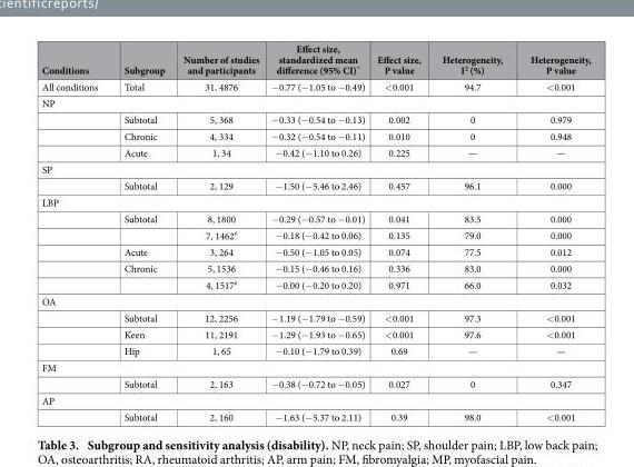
<table><thead><tr><td>Conditions</td><td>Subgroup</td><td>Number of studies and participants</td><td>Effect size, standardized mean difference (95% CI)*</td><td>Effect size, P value</td><td>Heterogeneity, I<sup>2</sup> (%)</td><td>Heterogeneity, P value</td></tr></thead><tbody><tr><td>All conditions</td><td>Total</td><td>31, 4876</td><td>− 0.77 (− 1.05 to − 0.49)</td><td>&lt; 0.001</td><td>94.7</td><td>&lt; 0.001</td></tr><tr><td colspan="7">NP</td></tr><tr><td></td><td>Subtotal</td><td>5, 368</td><td>− 0.33 (− 0.54 to − 0.13)</td><td>0.002</td><td>0</td><td>0.979</td></tr><tr><td></td><td>Chronic</td><td>4, 334</td><td>− 0.32 (− 0.54 to − 0.11)</td><td>0.010</td><td>0</td><td>0.948</td></tr><tr><td></td><td>Acute</td><td>1, 34</td><td>− 0.42 (− 1.10 to 0.26)</td><td>0.225</td><td>—</td><td>—</td></tr><tr><td colspan="7">SP</td></tr><tr><td></td><td>Subtotal</td><td>2, 129</td><td>− 1.50 (− 5.46 to 2.46)</td><td>0.457</td><td>96.1</td><td>0.000</td></tr><tr><td colspan="7">LBP</td></tr><tr><td></td><td>Subtotal</td><td>8, 1800</td><td>− 0.29 (− 0.57 to − 0.01)</td><td>0.041</td><td>83.5</td><td>0.000</td></tr><tr><td></td><td></td><td>7, 1462#</td><td>− 0.18 (− 0.42 to 0.06)</td><td>0.135</td><td>79.0</td><td>0.000</td></tr><tr><td></td><td>Acute</td><td>3, 264</td><td>− 0.50 (− 1.05 to 0.05)</td><td>0.074</td><td>77.5</td><td>0.012</td></tr><tr><td></td><td>Chronic</td><td>5, 1536</td><td>− 0.15 (− 0.46 to 0.16)</td><td>0.336</td><td>83.0</td><td>0.000</td></tr><tr><td></td><td></td><td>4, 1517#</td><td>− 0.00 (− 0.20 to 0.20)</td><td>0.971</td><td>66.0</td><td>0.032</td></tr><tr><td colspan="7">OA</td></tr><tr><td></td><td>Subtotal</td><td>12, 2256</td><td>− 1.19 (− 1.79 to − 0.59)</td><td>&lt; 0.001</td><td>97.3</td><td>&lt; 0.001</td></tr><tr><td></td><td>Keen</td><td>11, 2191</td><td>− 1.29 (− 1.93 to − 0.65)</td><td>&lt; 0.001</td><td>97.6</td><td>&lt; 0.001</td></tr><tr><td></td><td>Hip</td><td>1, 65</td><td>− 0.10 (− 1.79 to 0.39)</td><td>0.69</td><td>—</td><td>—</td></tr><tr><td colspan="7">FM</td></tr><tr><td></td><td>Subtotal</td><td>2, 163</td><td>− 0.38 (− 0.72 to − 0.05)</td><td>0.027</td><td>0</td><td>0.347</td></tr><tr><td colspan="7">AP</td></tr><tr><td></td><td>Subtotal</td><td>2, 160</td><td>− 1.63 (− 5.37 to 2.11)</td><td>0.39</td><td>98.0</td><td>&lt; 0.001</td></tr></tbody></table>